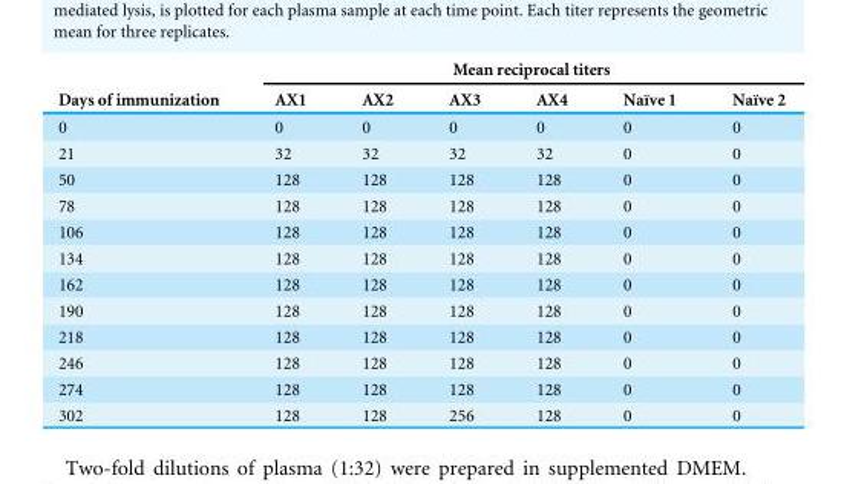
<table><thead><tr><td rowspan="2">Days of immunization</td><td colspan="6">Mean reciprocal titers</td></tr><tr><td>AX1</td><td>AX2</td><td>AX3</td><td>AX4</td><td>Naïve 1</td><td>Naïve 2</td></tr></thead><tbody><tr><td>0</td><td>0</td><td>0</td><td>0</td><td>0</td><td>0</td><td>0</td></tr><tr><td>21</td><td>32</td><td>32</td><td>32</td><td>32</td><td>0</td><td>0</td></tr><tr><td>50</td><td>128</td><td>128</td><td>128</td><td>128</td><td>0</td><td>0</td></tr><tr><td>78</td><td>128</td><td>128</td><td>128</td><td>128</td><td>0</td><td>0</td></tr><tr><td>106</td><td>128</td><td>128</td><td>128</td><td>128</td><td>0</td><td>0</td></tr><tr><td>134</td><td>128</td><td>128</td><td>128</td><td>128</td><td>0</td><td>0</td></tr><tr><td>162</td><td>128</td><td>128</td><td>128</td><td>128</td><td>0</td><td>0</td></tr><tr><td>190</td><td>128</td><td>128</td><td>128</td><td>128</td><td>0</td><td>0</td></tr><tr><td>218</td><td>128</td><td>128</td><td>128</td><td>128</td><td>0</td><td>0</td></tr><tr><td>246</td><td>128</td><td>128</td><td>128</td><td>128</td><td>0</td><td>0</td></tr><tr><td>274</td><td>128</td><td>128</td><td>128</td><td>128</td><td>0</td><td>0</td></tr><tr><td>302</td><td>128</td><td>128</td><td>256</td><td>128</td><td>0</td><td>0</td></tr></tbody></table>